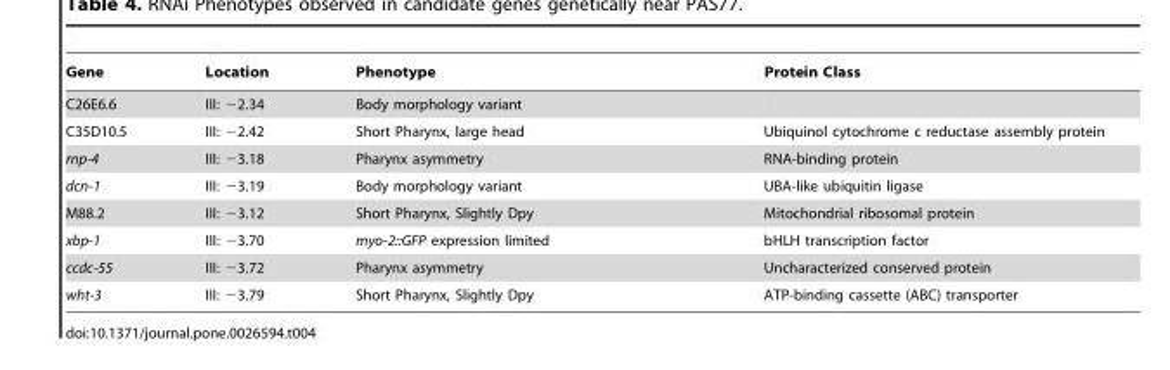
<table><thead><tr><td>Gene</td><td>Location</td><td>Phenotype</td><td>Protein Class</td></tr></thead><tbody><tr><td>C26E6.6</td><td>III: −2.34</td><td>Body morphology variant</td><td></td></tr><tr><td>C35D10.5</td><td>III: −2.42</td><td>Short Pharynx, large head</td><td>Ubiquinol cytochrome c reductase assembly protein</td></tr><tr><td>rnp-4</td><td>III: −3.18</td><td>Pharynx asymmetry</td><td>RNA-binding protein</td></tr><tr><td>dcn-1</td><td>III: −3.19</td><td>Body morphology variant</td><td>UBA-like ubiquitin ligase</td></tr><tr><td>M88.2</td><td>III: −3.12</td><td>Short Pharynx, Slightly Dpy</td><td>Mitochondrial ribosomal protein</td></tr><tr><td>xbp-1</td><td>III: −3.70</td><td>myo-2::GFP expression limited</td><td>bHLH transcription factor</td></tr><tr><td>ccdc-55</td><td>III: −3.72</td><td>Pharynx asymmetry</td><td>Uncharacterized conserved protein</td></tr><tr><td>wht-3</td><td>III: −3.79</td><td>Short Pharynx, Slightly Dpy</td><td>ATP-binding cassette (ABC) transporter</td></tr></tbody></table>